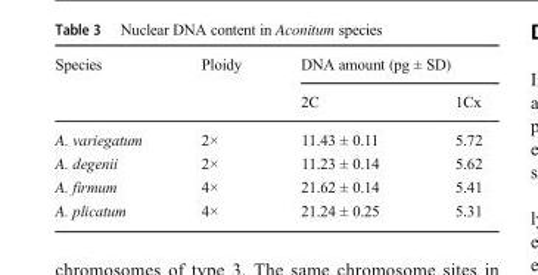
<table><thead><tr><td rowspan="2">Species</td><td rowspan="2">Ploidy</td><td colspan="2">DNA amount (pg ± SD)</td></tr><tr><td>2C</td><td>1Cx</td></tr></thead><tbody><tr><td>A. variegatum</td><td>2×</td><td>11.43 ± 0.11</td><td>5.72</td></tr><tr><td>A. degenii</td><td>2×</td><td>11.23 ± 0.14</td><td>5.62</td></tr><tr><td>A. firmum</td><td>4×</td><td>21.62 ± 0.14</td><td>5.41</td></tr><tr><td>A. plicatum</td><td>4×</td><td>21.24 ± 0.25</td><td>5.31</td></tr></tbody></table>